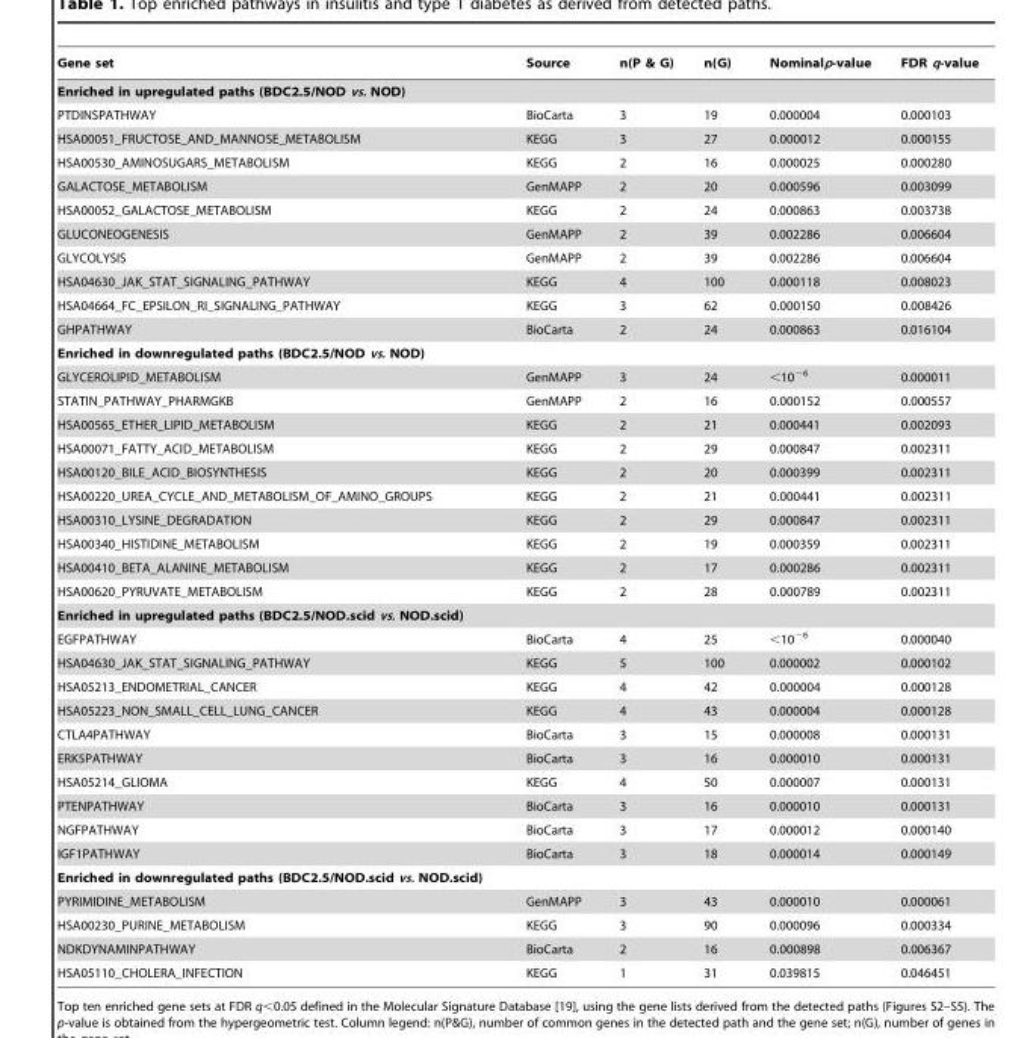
<table><thead><tr><td>Gene set</td><td>Source</td><td>n(P &amp; G)</td><td>n(G)</td><td>Nominalp-value</td><td>FDR q-value</td></tr></thead><tbody><tr><td colspan="6">Enriched in upregulated paths (BDC2.5/NOD vs. NOD)</td></tr><tr><td>PTDINSPATHWAY</td><td>BioCarta</td><td>3</td><td>19</td><td>0.000004</td><td>0.000103</td></tr><tr><td>HSA00051_FRUCTOSE_AND_MANNOSE_METABOLISM</td><td>KEGG</td><td>3</td><td>27</td><td>0.000012</td><td>0.000155</td></tr><tr><td>HSA00530_AMINOSUGARS_METABOLISM</td><td>KEGG</td><td>2</td><td>16</td><td>0.000025</td><td>0.000280</td></tr><tr><td>GALACTOSE_METABOLISM</td><td>GenMAPP</td><td>2</td><td>20</td><td>0.000596</td><td>0.003099</td></tr><tr><td>HSA00052_GALACTOSE_METABOLISM</td><td>KEGG</td><td>2</td><td>24</td><td>0.000863</td><td>0.003738</td></tr><tr><td>GLUCONEOGENESIS</td><td>GenMAPP</td><td>2</td><td>39</td><td>0.002286</td><td>0.006604</td></tr><tr><td>GLYCOLYSIS</td><td>GenMAPP</td><td>2</td><td>39</td><td>0.002286</td><td>0.006604</td></tr><tr><td>HSA04630_JAK_STAT_SIGNALING_PATHWAY</td><td>KEGG</td><td>4</td><td>100</td><td>0.000118</td><td>0.008023</td></tr><tr><td>HSA04664_FC_EPSILON_RI_SIGNALING_PATHWAY</td><td>KEGG</td><td>3</td><td>62</td><td>0.000150</td><td>0.008426</td></tr><tr><td>GHPATHWAY</td><td>BioCarta</td><td>2</td><td>24</td><td>0.000863</td><td>0.016104</td></tr><tr><td colspan="6">Enriched in downregulated paths (BDC2.5/NOD vs. NOD)</td></tr><tr><td>GLYCEROLIPID_METABOLISM</td><td>GenMAPP</td><td>3</td><td>24</td><td>&lt;10<sup>−6</sup></td><td>0.000011</td></tr><tr><td>STATIN_PATHWAY_PHARMGKB</td><td>GenMAPP</td><td>2</td><td>16</td><td>0.000152</td><td>0.000557</td></tr><tr><td>HSA00565_ETHER_LIPID_METABOLISM</td><td>KEGG</td><td>2</td><td>21</td><td>0.000441</td><td>0.002093</td></tr><tr><td>HSA00071_FATTY_ACID_METABOLISM</td><td>KEGG</td><td>2</td><td>29</td><td>0.000847</td><td>0.002311</td></tr><tr><td>HSA00120_BILE_ACID_BIOSYNTHESIS</td><td>KEGG</td><td>2</td><td>20</td><td>0.000399</td><td>0.002311</td></tr><tr><td>HSA00220_UREA_CYCLE_AND_METABOLISM_OF_AMINO_GROUPS</td><td>KEGG</td><td>2</td><td>21</td><td>0.000441</td><td>0.002311</td></tr><tr><td>HSA00310_LYSINE_DEGRADATION</td><td>KEGG</td><td>2</td><td>29</td><td>0.000847</td><td>0.002311</td></tr><tr><td>HSA00340_HISTIDINE_METABOLISM</td><td>KEGG</td><td>2</td><td>19</td><td>0.000359</td><td>0.002311</td></tr><tr><td>HSA00410_BETA_ALANINE_METABOLISM</td><td>KEGG</td><td>2</td><td>17</td><td>0.000286</td><td>0.002311</td></tr><tr><td>HSA00620_PYRUVATE_METABOLISM</td><td>KEGG</td><td>2</td><td>28</td><td>0.000789</td><td>0.002311</td></tr><tr><td colspan="6">Enriched in upregulated paths (BDC2.5/NOD.scid vs. NOD.scid)</td></tr><tr><td>EGFPATHWAY</td><td>BioCarta</td><td>4</td><td>25</td><td>&lt;10<sup>−6</sup></td><td>0.000040</td></tr><tr><td>HSA04630_JAK_STAT_SIGNALING_PATHWAY</td><td>KEGG</td><td>5</td><td>100</td><td>0.000002</td><td>0.000102</td></tr><tr><td>HSA05213_ENDOMETRIAL_CANCER</td><td>KEGG</td><td>4</td><td>42</td><td>0.000004</td><td>0.000128</td></tr><tr><td>HSA05223_NON_SMALL_CELL_LUNG_CANCER</td><td>KEGG</td><td>4</td><td>43</td><td>0.000004</td><td>0.000128</td></tr><tr><td>CTLA4PATHWAY</td><td>BioCarta</td><td>3</td><td>15</td><td>0.000008</td><td>0.000131</td></tr><tr><td>ERK5PATHWAY</td><td>BioCarta</td><td>3</td><td>16</td><td>0.000010</td><td>0.000131</td></tr><tr><td>HSA05214_GLIOMA</td><td>KEGG</td><td>4</td><td>50</td><td>0.000007</td><td>0.000131</td></tr><tr><td>PTENPATHWAY</td><td>BioCarta</td><td>3</td><td>16</td><td>0.000010</td><td>0.000131</td></tr><tr><td>NGFPATHWAY</td><td>BioCarta</td><td>3</td><td>17</td><td>0.000012</td><td>0.000140</td></tr><tr><td>IGF1PATHWAY</td><td>BioCarta</td><td>3</td><td>18</td><td>0.000014</td><td>0.000149</td></tr><tr><td colspan="6">Enriched in downregulated paths (BDC2.5/NOD.scid vs. NOD.scid)</td></tr><tr><td>PYRIMIDINE_METABOLISM</td><td>GenMAPP</td><td>3</td><td>43</td><td>0.000010</td><td>0.000061</td></tr><tr><td>HSA00230_PURINE_METABOLISM</td><td>KEGG</td><td>3</td><td>90</td><td>0.000096</td><td>0.000334</td></tr><tr><td>NDKDYNAMINPATHWAY</td><td>BioCarta</td><td>2</td><td>16</td><td>0.000898</td><td>0.006367</td></tr><tr><td>HSA05110_CHOLERA_INFECTION</td><td>KEGG</td><td>1</td><td>31</td><td>0.039815</td><td>0.046451</td></tr></tbody></table>